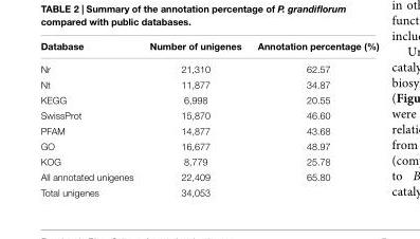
<table><thead><tr><td>Database</td><td>Number of unigenes</td><td>Annotation percentage (%)</td></tr></thead><tbody><tr><td>Nr</td><td>21,310</td><td>62.57</td></tr><tr><td>Nt</td><td>11,877</td><td>34.87</td></tr><tr><td>KEGG</td><td>6,998</td><td>20.55</td></tr><tr><td>SwissProt</td><td>15,870</td><td>46.60</td></tr><tr><td>PFAM</td><td>14,877</td><td>43.68</td></tr><tr><td>GO</td><td>16,677</td><td>48.97</td></tr><tr><td>KOG</td><td>8,779</td><td>25.78</td></tr><tr><td>All annotated unigenes</td><td>22,409</td><td>65.80</td></tr><tr><td>Total unigenes</td><td>34,053</td><td></td></tr></tbody></table>